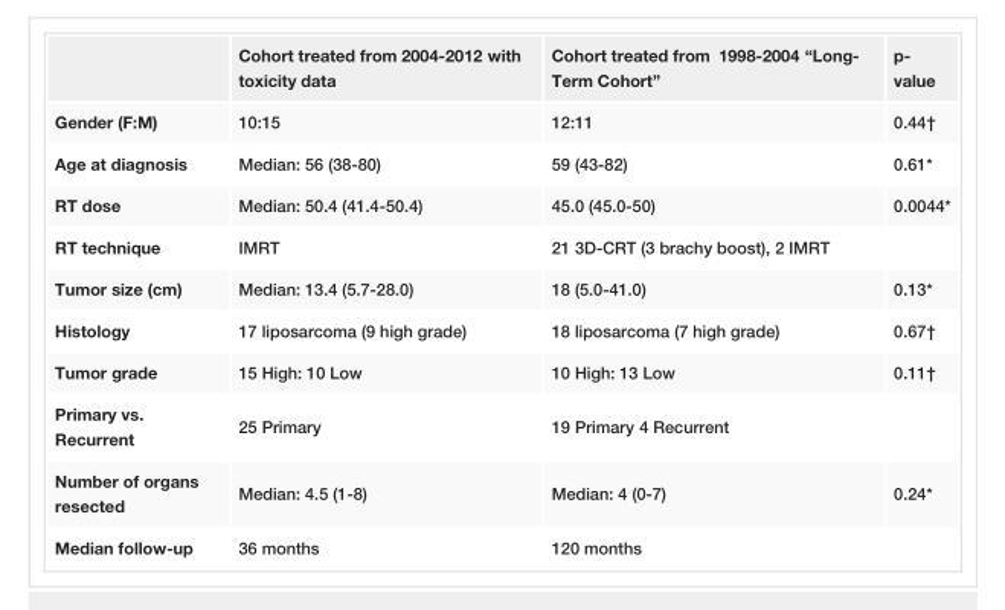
<table><thead><tr><td></td><td>Cohort treated from 2004-2012 with toxicity data</td><td>Cohort treated from 1998-2004 “Long- Term Cohort”</td><td>p- value</td></tr></thead><tbody><tr><td>Gender (F:M)</td><td>10:15</td><td>12:11</td><td>0.44†</td></tr><tr><td>Age at diagnosis</td><td>Median: 56 (38-80)</td><td>59 (43-82)</td><td>0.61*</td></tr><tr><td>RT dose</td><td>Median: 50.4 (41.4-50.4)</td><td>45.0 (45.0-50)</td><td>0.0044*</td></tr><tr><td>RT technique</td><td>IMRT</td><td>21 3D-CRT (3 brachy boost), 2 IMRT</td><td></td></tr><tr><td>Tumor size (cm)</td><td>Median: 13.4 (5.7-28.0)</td><td>18 (5.0-41.0)</td><td>0.13*</td></tr><tr><td>Histology</td><td>17 liposarcoma (9 high grade)</td><td>18 liposarcoma (7 high grade)</td><td>0.67†</td></tr><tr><td>Tumor grade</td><td>15 High: 10 Low</td><td>10 High: 13 Low</td><td>0.11†</td></tr><tr><td>Primary vs. Recurrent</td><td>25 Primary</td><td>19 Primary 4 Recurrent</td><td></td></tr><tr><td>Number of organs resected</td><td>Median: 4.5 (1-8)</td><td>Median: 4 (0-7)</td><td>0.24*</td></tr><tr><td>Median follow-up</td><td>36 months</td><td>120 months</td><td></td></tr></tbody></table>